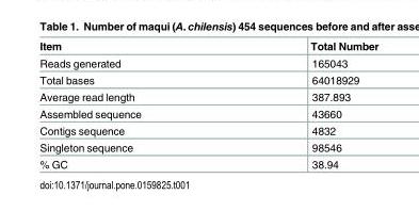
<table><thead><tr><td>Item</td><td>Total Number</td></tr></thead><tbody><tr><td>Reads generated</td><td>165043</td></tr><tr><td>Total bases</td><td>64018929</td></tr><tr><td>Average read length</td><td>387.893</td></tr><tr><td>Assembled sequence</td><td>43660</td></tr><tr><td>Contigs sequence</td><td>4832</td></tr><tr><td>Singleton sequence</td><td>98546</td></tr><tr><td>% GC</td><td>38.94</td></tr></tbody></table>